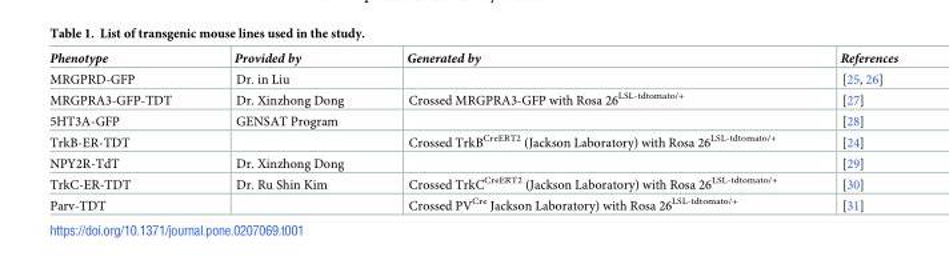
<table><thead><tr><td>Phenotype</td><td>Provided by</td><td>Generated by</td><td>References</td></tr></thead><tbody><tr><td>MRGPRD-GFP</td><td>Dr. in Liu</td><td></td><td>[25, 26]</td></tr><tr><td>MRGPRA3-GFP-TDT</td><td>Dr. Xinzhong Dong</td><td>Crossed MRGPRA3-GFP with Rosa 26<sup>LSL-tdtomato/+</sup></td><td>[27]</td></tr><tr><td>5HT3A-GFP</td><td>GENSAT Program</td><td></td><td>[28]</td></tr><tr><td>TrkB-ER-TDT</td><td></td><td>Crossed TrkB<sup>CreERT2</sup> (Jackson Laboratory) with Rosa 26<sup>LSL-tdtomato/+</sup></td><td>[24]</td></tr><tr><td>NPY2R-TdT</td><td>Dr. Xinzhong Dong</td><td></td><td>[29]</td></tr><tr><td>TrkC-ER-TDT</td><td>Dr. Ru Shin Kim</td><td>Crossed TrkC<sup>CreERT2</sup> (Jackson Laboratory) with Rosa 26<sup>LSL-tdtomato/+</sup></td><td>[30]</td></tr><tr><td>Parv-TDT</td><td></td><td>Crossed PV<sup>Cre</sup> Jackson Laboratory) with Rosa 26<sup>LSL-tdtomato/+</sup></td><td>[31]</td></tr></tbody></table>